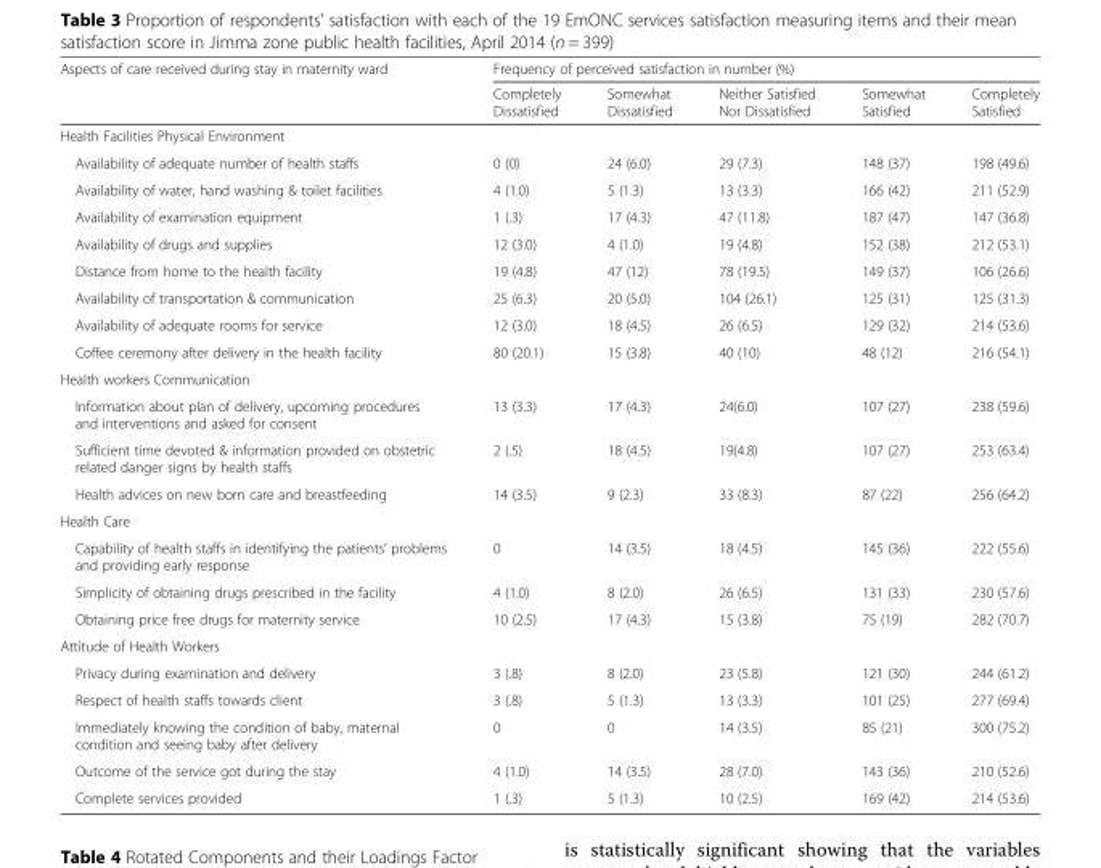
<table><thead><tr><td rowspan="2">Aspects of care received during stay in maternity ward</td><td colspan="5">Frequency of perceived satisfaction in number (%)</td></tr><tr><td>Completely Dissatisfied</td><td>Somewhat Dissatisfied</td><td>Neither Satisfied Nor Dissatisfied</td><td>Somewhat Satisfied</td><td>Completely Satisfied</td></tr></thead><tbody><tr><td colspan="6">Health Facilities Physical Environment</td></tr><tr><td>Availability of adequate number of health staffs</td><td>0 (0)</td><td>24 (6.0)</td><td>29 (7.3)</td><td>148 (37)</td><td>198 (49.6)</td></tr><tr><td>Availability of water, hand washing &amp; toilet facilities</td><td>4 (1.0)</td><td>5 (1.3)</td><td>13 (3.3)</td><td>166 (42)</td><td>211 (52.9)</td></tr><tr><td>Availability of examination equipment</td><td>1 (.3)</td><td>17 (4.3)</td><td>47 (11.8)</td><td>187 (47)</td><td>147 (36.8)</td></tr><tr><td>Availability of drugs and supplies</td><td>12 (3.0)</td><td>4 (1.0)</td><td>19 (4.8)</td><td>152 (38)</td><td>212 (53.1)</td></tr><tr><td>Distance from home to the health facility</td><td>19 (4.8)</td><td>47 (12)</td><td>78 (19.5)</td><td>149 (37)</td><td>106 (26.6)</td></tr><tr><td>Availability of transportation &amp; communication</td><td>25 (6.3)</td><td>20 (5.0)</td><td>104 (26.1)</td><td>125 (31)</td><td>125 (31.3)</td></tr><tr><td>Availability of adequate rooms for service</td><td>12 (3.0)</td><td>18 (4.5)</td><td>26 (6.5)</td><td>129 (32)</td><td>214 (53.6)</td></tr><tr><td>Coffee ceremony after delivery in the health facility</td><td>80 (20.1)</td><td>15 (3.8)</td><td>40 (10)</td><td>48 (12)</td><td>216 (54.1)</td></tr><tr><td colspan="6">Health workers Communication</td></tr><tr><td>Information about plan of delivery, upcoming procedures and interventions and asked for consent</td><td>13 (3.3)</td><td>17 (4.3)</td><td>24(6.0)</td><td>107 (27)</td><td>238 (59.6)</td></tr><tr><td>Sufficient time devoted &amp; information provided on obstetric related danger signs by health staffs</td><td>2 (.5)</td><td>18 (4.5)</td><td>19(4.8)</td><td>107 (27)</td><td>253 (63.4)</td></tr><tr><td>Health advices on new born care and breastfeeding</td><td>14 (3.5)</td><td>9 (2.3)</td><td>33 (8.3)</td><td>87 (22)</td><td>256 (64.2)</td></tr><tr><td colspan="6">Health Care</td></tr><tr><td>Capability of health staffs in identifying the patients’ problems and providing early response</td><td>0</td><td>14 (3.5)</td><td>18 (4.5)</td><td>145 (36)</td><td>222 (55.6)</td></tr><tr><td>Simplicity of obtaining drugs prescribed in the facility</td><td>4 (1.0)</td><td>8 (2.0)</td><td>26 (6.5)</td><td>131 (33)</td><td>230 (57.6)</td></tr><tr><td>Obtaining price free drugs for maternity service</td><td>10 (2.5)</td><td>17 (4.3)</td><td>15 (3.8)</td><td>75 (19)</td><td>282 (70.7)</td></tr><tr><td colspan="6">Attitude of Health Workers</td></tr><tr><td>Privacy during examination and delivery</td><td>3 (.8)</td><td>8 (2.0)</td><td>23 (5.8)</td><td>121 (30)</td><td>244 (61.2)</td></tr><tr><td>Respect of health staffs towards client</td><td>3 (.8)</td><td>5 (1.3)</td><td>13 (3.3)</td><td>101 (25)</td><td>277 (69.4)</td></tr><tr><td>Immediately knowing the condition of baby, maternal condition and seeing baby after delivery</td><td>0</td><td>0</td><td>14 (3.5)</td><td>85 (21)</td><td>300 (75.2)</td></tr><tr><td>Outcome of the service got during the stay</td><td>4 (1.0)</td><td>14 (3.5)</td><td>28 (7.0)</td><td>143 (36)</td><td>210 (52.6)</td></tr><tr><td>Complete services provided</td><td>1 (.3)</td><td>5 (1.3)</td><td>10 (2.5)</td><td>169 (42)</td><td>214 (53.6)</td></tr></tbody></table>